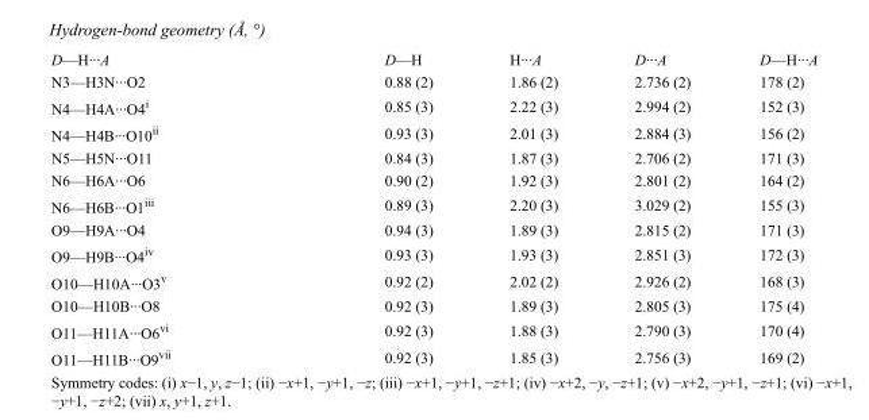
<table><tbody><tr><td>D—H···A</td><td>D—H</td><td>H···A</td><td>D···A</td><td>D—H···A</td></tr><tr><td>N3—H3N···O2</td><td>0.88 (2)</td><td>1.86 (2)</td><td>2.736 (2)</td><td>178 (2)</td></tr><tr><td>N4—H4A···O4<sup>i</sup></td><td>0.85 (3)</td><td>2.22 (3)</td><td>2.994 (2)</td><td>152 (3)</td></tr><tr><td>N4—H4B···O10<sup>ii</sup></td><td>0.93 (3)</td><td>2.01 (3)</td><td>2.884 (3)</td><td>156 (2)</td></tr><tr><td>N5—H5N···O11</td><td>0.84 (3)</td><td>1.87 (3)</td><td>2.706 (2)</td><td>171 (3)</td></tr><tr><td>N6—H6A···O6</td><td>0.90 (2)</td><td>1.92 (3)</td><td>2.801 (2)</td><td>164 (2)</td></tr><tr><td>N6—H6B···O1<sup>iii</sup></td><td>0.89 (3)</td><td>2.20 (3)</td><td>3.029 (2)</td><td>155 (3)</td></tr><tr><td>O9—H9A···O4</td><td>0.94 (3)</td><td>1.89 (3)</td><td>2.815 (2)</td><td>171 (3)</td></tr><tr><td>O9—H9B···O4<sup>iv</sup></td><td>0.93 (3)</td><td>1.93 (3)</td><td>2.851 (3)</td><td>172 (3)</td></tr><tr><td>O10—H10A···O3<sup>v</sup></td><td>0.92 (2)</td><td>2.02 (2)</td><td>2.926 (2)</td><td>168 (3)</td></tr><tr><td>O10—H10B···O8</td><td>0.92 (3)</td><td>1.89 (3)</td><td>2.805 (3)</td><td>175 (4)</td></tr><tr><td>O11—H11A···O6<sup>vi</sup></td><td>0.92 (3)</td><td>1.88 (3)</td><td>2.790 (3)</td><td>170 (4)</td></tr><tr><td>O11—H11B···O9<sup>vii</sup></td><td>0.92 (3)</td><td>1.85 (3)</td><td>2.756 (3)</td><td>169 (2)</td></tr></tbody></table>